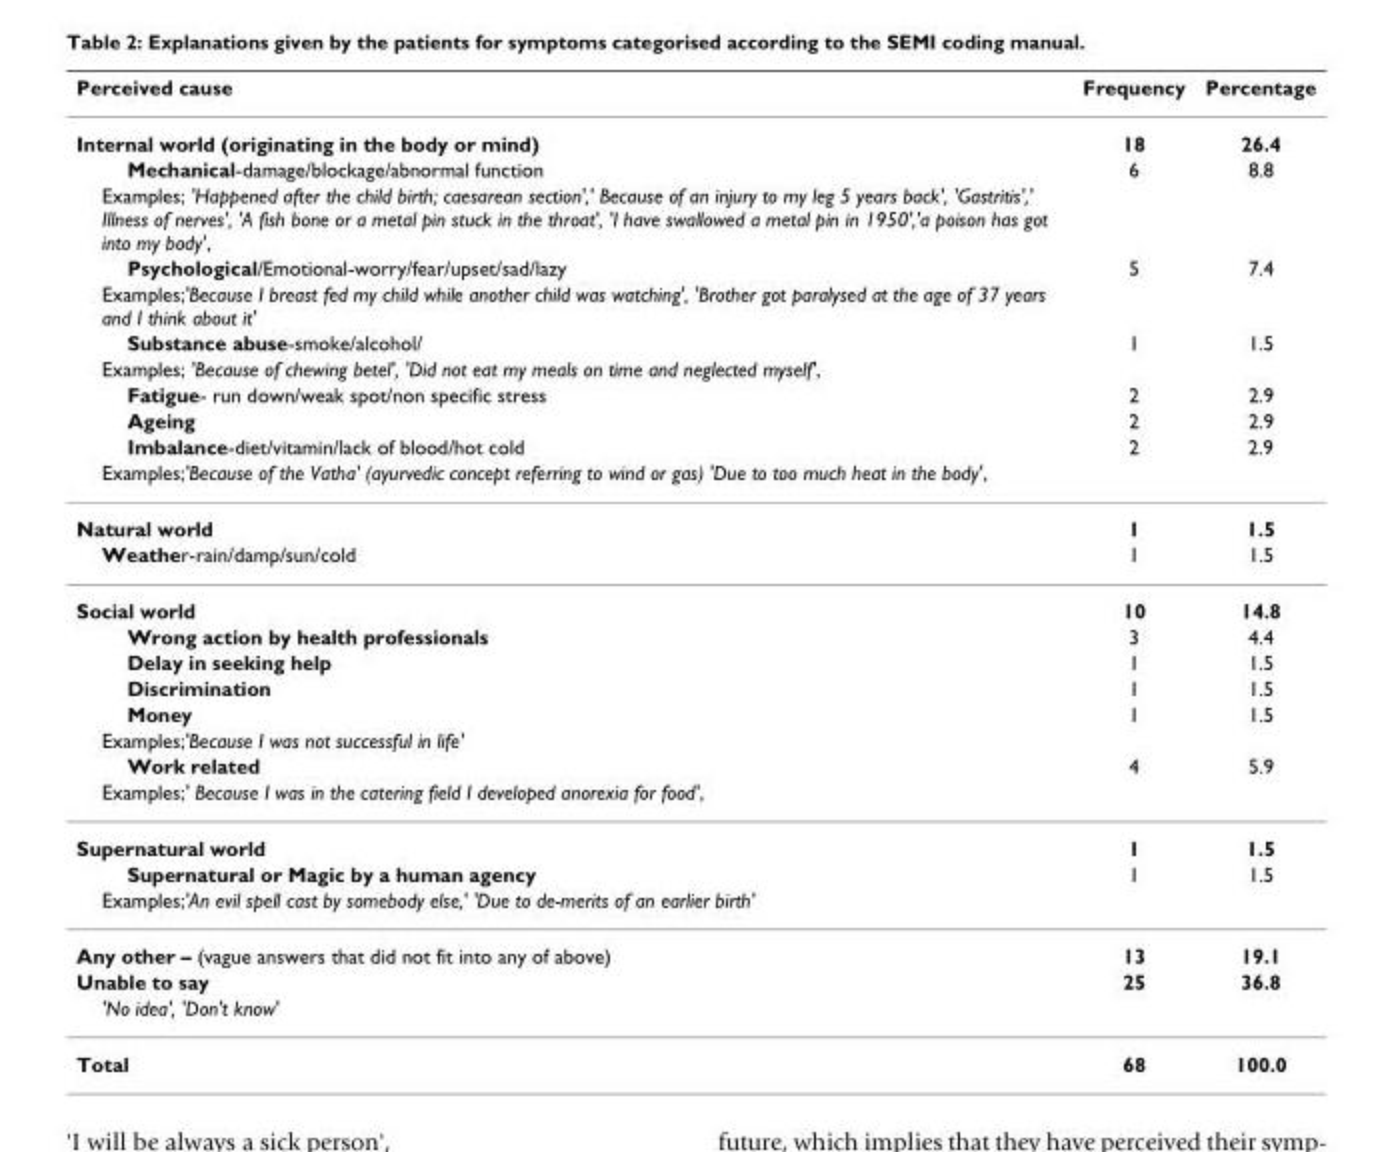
<table><thead><tr><td>Perceived cause</td><td>Frequency</td><td>Percentage</td></tr></thead><tbody><tr><td>Internal world (originating in the body or mind)</td><td>18</td><td>26.4</td></tr><tr><td>Mechanical-damage/blockage/abnormal function</td><td>6</td><td>8.8</td></tr><tr><td colspan="3">Examples; &#x27;Happened after the child birth; caesarean section&#x27;,&#x27; Because of an injury to my leg 5 years back&#x27;, &#x27;Gastritis&#x27;,&#x27; Illness of nerves&#x27;, &#x27;A fish bone or a metal pin stuck in the throat&#x27;, &#x27;I have swallowed a metal pin in 1950&#x27;,&#x27;a poison has got into my body&#x27;,</td></tr><tr><td>Psychological/Emotional-worry/fear/upset/sad/lazy</td><td>5</td><td>7.4</td></tr><tr><td colspan="3">Examples;&#x27;Because I breast fed my child while another child was watching&#x27;, &#x27;Brother got paralysed at the age of 37 years and I think about it&#x27;</td></tr><tr><td>Substance abuse-smoke/alcohol/</td><td>1</td><td>1.5</td></tr><tr><td colspan="3">Examples; &#x27;Because of chewing betel&#x27;, &#x27;Did not eat my meals on time and neglected myself&#x27;,</td></tr><tr><td>Fatigue- run down/weak spot/non specific stress</td><td>2</td><td>2.9</td></tr><tr><td>Ageing</td><td>2</td><td>2.9</td></tr><tr><td>Imbalance-diet/vitamin/lack of blood/hot cold</td><td>2</td><td>2.9</td></tr><tr><td colspan="3">Examples;&#x27;Because of the Vatha&#x27; (ayurvedic concept referring to wind or gas) &#x27;Due to too much heat in the body&#x27;,</td></tr><tr><td>Natural world</td><td>1</td><td>1.5</td></tr><tr><td>Weather-rain/damp/sun/cold</td><td>1</td><td>1.5</td></tr><tr><td>Social world</td><td>10</td><td>14.8</td></tr><tr><td>Wrong action by health professionals</td><td>3</td><td>4.4</td></tr><tr><td>Delay in seeking help</td><td>1</td><td>1.5</td></tr><tr><td>Discrimination</td><td>1</td><td>1.5</td></tr><tr><td>Money</td><td>1</td><td>1.5</td></tr><tr><td colspan="3">Examples;&#x27;Because I was not successful in life&#x27;</td></tr><tr><td>Work related</td><td>4</td><td>5.9</td></tr><tr><td colspan="3">Examples;&#x27; Because I was in the catering field I developed anorexia for food&#x27;,</td></tr><tr><td>Supernatural world</td><td>1</td><td>1.5</td></tr><tr><td>Supernatural or Magic by a human agency</td><td>1</td><td>1.5</td></tr><tr><td colspan="3">Examples;&#x27;An evil spell cast by somebody else,&#x27; &#x27;Due to de-merits of an earlier birth&#x27;</td></tr><tr><td>Any other – (vague answers that did not fit into any of above)</td><td>13</td><td>19.1</td></tr><tr><td>Unable to say</td><td>25</td><td>36.8</td></tr><tr><td colspan="3">&#x27;No idea&#x27;, &#x27;Don&#x27;t know&#x27;</td></tr><tr><td>Total</td><td>68</td><td>100.0</td></tr></tbody></table>